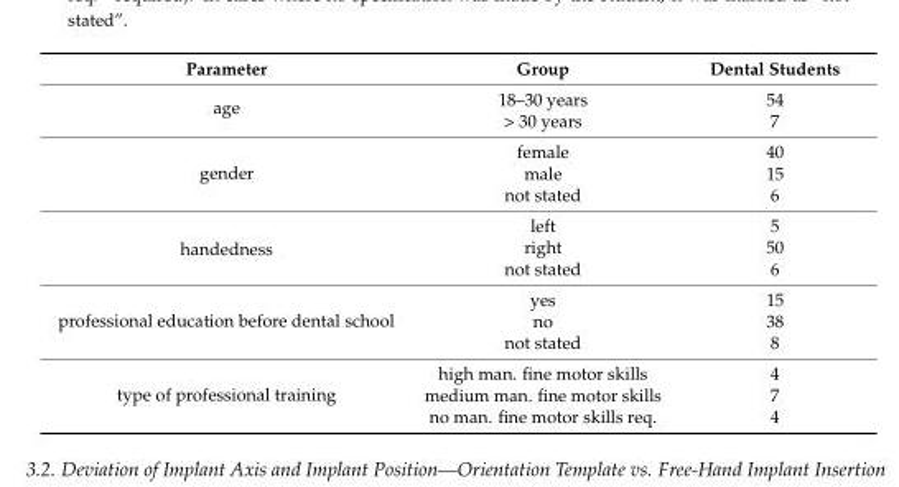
<table><thead><tr><td>Parameter</td><td>Group</td><td>Dental Students</td></tr></thead><tbody><tr><td rowspan="2">age</td><td>18–30 years</td><td>54</td></tr><tr><td>&gt; 30 years</td><td>7</td></tr><tr><td rowspan="3">gender</td><td>female</td><td>40</td></tr><tr><td>male</td><td>15</td></tr><tr><td>not stated</td><td>6</td></tr><tr><td rowspan="3">handedness</td><td>left</td><td>5</td></tr><tr><td>right</td><td>50</td></tr><tr><td>not stated</td><td>6</td></tr><tr><td rowspan="3">professional education before dental school</td><td>yes</td><td>15</td></tr><tr><td>no</td><td>38</td></tr><tr><td>not stated</td><td>8</td></tr><tr><td rowspan="3">type of professional training</td><td>high man. fine motor skills</td><td>4</td></tr><tr><td>medium man. fine motor skills</td><td>7</td></tr><tr><td>no man. fine motor skills req.</td><td>4</td></tr></tbody></table>